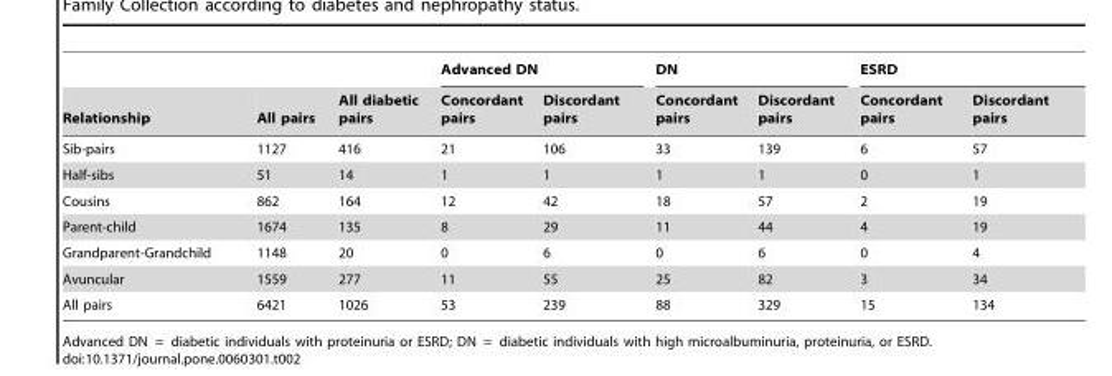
<table><thead><tr><td rowspan="2">Relationship</td><td rowspan="2">All pairs</td><td rowspan="2">All diabetic pairs</td><td colspan="2">Advanced DN</td><td colspan="2">DN</td><td colspan="2">ESRD</td></tr><tr><td>Concordant pairs</td><td>Discordant pairs</td><td>Concordant pairs</td><td>Discordant pairs</td><td>Concordant pairs</td><td>Discordant pairs</td></tr></thead><tbody><tr><td>Sib-pairs</td><td>1127</td><td>416</td><td>21</td><td>106</td><td>33</td><td>139</td><td>6</td><td>57</td></tr><tr><td>Half-sibs</td><td>51</td><td>14</td><td>1</td><td>1</td><td>1</td><td>1</td><td>0</td><td>1</td></tr><tr><td>Cousins</td><td>862</td><td>164</td><td>12</td><td>42</td><td>18</td><td>57</td><td>2</td><td>19</td></tr><tr><td>Parent-child</td><td>1674</td><td>135</td><td>8</td><td>29</td><td>11</td><td>44</td><td>4</td><td>19</td></tr><tr><td>Grandparent-Grandchild</td><td>1148</td><td>20</td><td>0</td><td>6</td><td>0</td><td>6</td><td>0</td><td>4</td></tr><tr><td>Avuncular</td><td>1559</td><td>277</td><td>11</td><td>55</td><td>25</td><td>82</td><td>3</td><td>34</td></tr><tr><td>All pairs</td><td>6421</td><td>1026</td><td>53</td><td>239</td><td>88</td><td>329</td><td>15</td><td>134</td></tr></tbody></table>